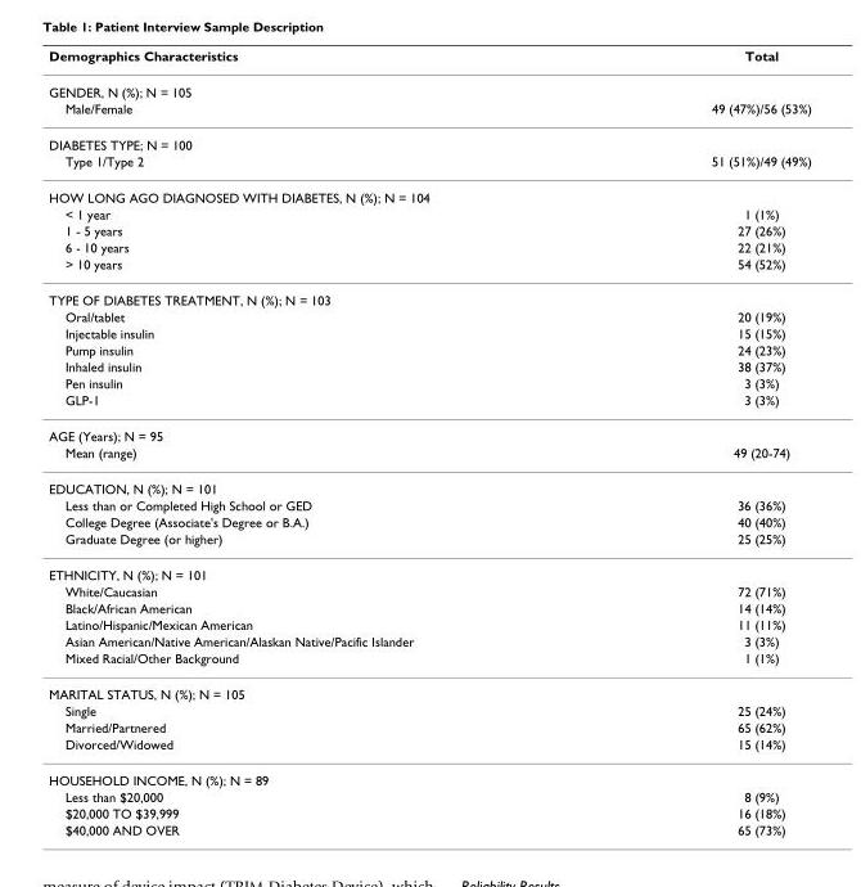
<table><thead><tr><td>Demographics Characteristics</td><td>Total</td></tr></thead><tbody><tr><td colspan="2">GENDER, N (%); N = 105</td></tr><tr><td>Male/Female</td><td>49 (47%)/56 (53%)</td></tr><tr><td colspan="2">DIABETES TYPE; N = 100</td></tr><tr><td>Type 1/Type 2</td><td>51 (51%)/49 (49%)</td></tr><tr><td colspan="2">HOW LONG AGO DIAGNOSED WITH DIABETES, N (%); N = 104</td></tr><tr><td>&lt; 1 year</td><td>1 (1%)</td></tr><tr><td>1 - 5 years</td><td>27 (26%)</td></tr><tr><td>6 - 10 years</td><td>22 (21%)</td></tr><tr><td>&gt; 10 years</td><td>54 (52%)</td></tr><tr><td colspan="2">TYPE OF DIABETES TREATMENT, N (%); N = 103</td></tr><tr><td>Oral/tablet</td><td>20 (19%)</td></tr><tr><td>Injectable insulin</td><td>15 (15%)</td></tr><tr><td>Pump insulin</td><td>24 (23%)</td></tr><tr><td>Inhaled insulin</td><td>38 (37%)</td></tr><tr><td>Pen insulin</td><td>3 (3%)</td></tr><tr><td>GLP-1</td><td>3 (3%)</td></tr><tr><td colspan="2">AGE (Years); N = 95</td></tr><tr><td>Mean (range)</td><td>49 (20-74)</td></tr><tr><td colspan="2">EDUCATION, N (%); N = 101</td></tr><tr><td>Less than or Completed High School or GED</td><td>36 (36%)</td></tr><tr><td>College Degree (Associate&#x27;s Degree or B.A.)</td><td>40 (40%)</td></tr><tr><td>Graduate Degree (or higher)</td><td>25 (25%)</td></tr><tr><td colspan="2">ETHNICITY, N (%); N = 101</td></tr><tr><td>White/Caucasian</td><td>72 (71%)</td></tr><tr><td>Black/African American</td><td>14 (14%)</td></tr><tr><td>Latino/Hispanic/Mexican American</td><td>11 (11%)</td></tr><tr><td>Asian American/Native American/Alaskan Native/Pacific Islander</td><td>3 (3%)</td></tr><tr><td>Mixed Racial/Other Background</td><td>1 (1%)</td></tr><tr><td colspan="2">MARITAL STATUS, N (%); N = 105</td></tr><tr><td>Single</td><td>25 (24%)</td></tr><tr><td>Married/Partnered</td><td>65 (62%)</td></tr><tr><td>Divorced/Widowed</td><td>15 (14%)</td></tr><tr><td colspan="2">HOUSEHOLD INCOME, N (%); N = 89</td></tr><tr><td>Less than $20,000</td><td>8 (9%)</td></tr><tr><td>$20,000 TO $39,999</td><td>16 (18%)</td></tr><tr><td>$40,000 AND OVER</td><td>65 (73%)</td></tr></tbody></table>